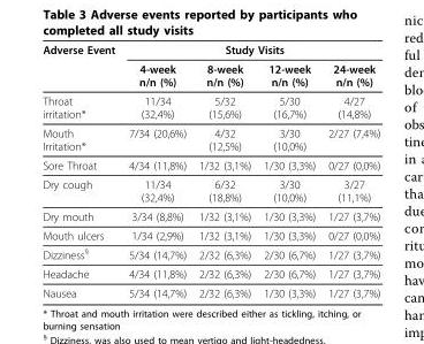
<table><thead><tr><td rowspan="2">Adverse Event</td><td colspan="4">Study Visits</td></tr><tr><td>4-week n/n (%)</td><td>8-week n/n (%)</td><td>12-week n/n (%)</td><td>24-week n/n (%)</td></tr></thead><tbody><tr><td>Throat irritation*</td><td>11/34 (32,4%)</td><td>5/32 (15,6%)</td><td>5/30 (16,7%)</td><td>4/27 (14,8%)</td></tr><tr><td>Mouth Irritation*</td><td>7/34 (20,6%)</td><td>4/32 (12,5%)</td><td>3/30 (10,0%)</td><td>2/27 (7,4%)</td></tr><tr><td>Sore Throat</td><td>4/34 (11,8%)</td><td>1/32 (3,1%)</td><td>1/30 (3,3%)</td><td>0/27 (0,0%)</td></tr><tr><td>Dry cough</td><td>11/34 (32,4%)</td><td>6/32 (18,8%)</td><td>3/30 (10,0%)</td><td>3/27 (11,1%)</td></tr><tr><td>Dry mouth</td><td>3/34 (8,8%)</td><td>1/32 (3,1%)</td><td>1/30 (3,3%)</td><td>1/27 (3,7%)</td></tr><tr><td>Mouth ulcers</td><td>1/34 (2,9%)</td><td>1/32 (3,1%)</td><td>1/30 (3,3%)</td><td>0/27 (0,0%)</td></tr><tr><td>Dizziness<sup>§</sup></td><td>5/34 (14,7%)</td><td>2/32 (6,3%)</td><td>2/30 (6,7%)</td><td>1/27 (3,7%)</td></tr><tr><td>Headache</td><td>4/34 (11,8%)</td><td>2/32 (6,3%)</td><td>2/30 (6,7%)</td><td>1/27 (3,7%)</td></tr><tr><td>Nausea</td><td>5/34 (14,7%)</td><td>2/32 (6,3%)</td><td>1/30 (3,3%)</td><td>1/27 (3,7%)</td></tr></tbody></table>